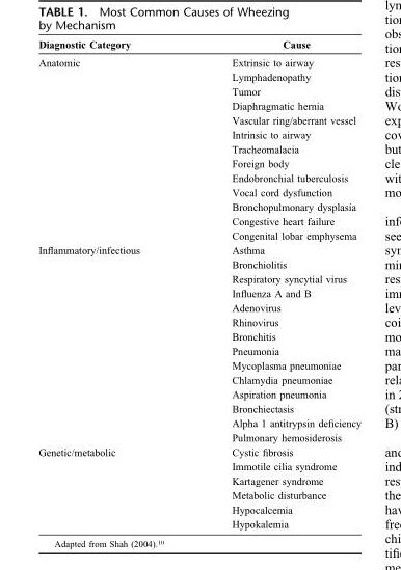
<table><thead><tr><td>Diagnostic Category</td><td>Cause</td></tr></thead><tbody><tr><td rowspan="13">Anatomic</td><td>Extrinsic to airway</td></tr><tr><td>Lymphadenopathy</td></tr><tr><td>Tumor</td></tr><tr><td>Diaphragmatic hernia</td></tr><tr><td>Vascular ring/aberrant vessel</td></tr><tr><td>Intrinsic to airway</td></tr><tr><td>Tracheomalacia</td></tr><tr><td>Foreign body</td></tr><tr><td>Endobronchial tuberculosis</td></tr><tr><td>Vocal cord dysfunction</td></tr><tr><td>Bronchopulmonary dysplasia</td></tr><tr><td>Congestive heart failure</td></tr><tr><td>Congenital lobar emphysema</td></tr><tr><td rowspan="14">Inflammatory/infectious</td><td>Asthma</td></tr><tr><td>Bronchiolitis</td></tr><tr><td>Respiratory syncytial virus</td></tr><tr><td>Influenza A and B</td></tr><tr><td>Adenovirus</td></tr><tr><td>Rhinovirus</td></tr><tr><td>Bronchitis</td></tr><tr><td>Pneumonia</td></tr><tr><td>Mycoplasma pneumoniae</td></tr><tr><td>Chlamydia pneumoniae</td></tr><tr><td>Aspiration pneumonia</td></tr><tr><td>Bronchiectasis</td></tr><tr><td>Alpha 1 antitrypsin deficiency</td></tr><tr><td>Pulmonary hemosiderosis</td></tr><tr><td rowspan="6">Genetic/metabolic</td><td>Cystic fibrosis</td></tr><tr><td>Immotile cilia syndrome</td></tr><tr><td>Kartagener syndrome</td></tr><tr><td>Metabolic disturbance</td></tr><tr><td>Hypocalcemia</td></tr><tr><td>Hypokalemia</td></tr></tbody></table>